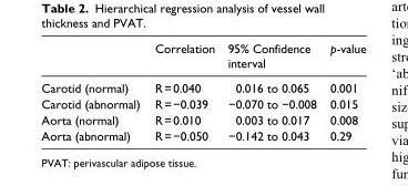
<table><thead><tr><td></td><td>Correlation</td><td>95% Confidence interval</td><td>p-value</td></tr></thead><tbody><tr><td>Carotid (normal)</td><td>R = 0.040</td><td>0.016 to 0.065</td><td>0.001</td></tr><tr><td>Carotid (abnormal)</td><td>R = −0.039</td><td>−0.070 to −0.008</td><td>0.015</td></tr><tr><td>Aorta (normal)</td><td>R = 0.010</td><td>0.003 to 0.017</td><td>0.008</td></tr><tr><td>Aorta (abnormal)</td><td>R = −0.050</td><td>−0.142 to 0.043</td><td>0.29</td></tr></tbody></table>